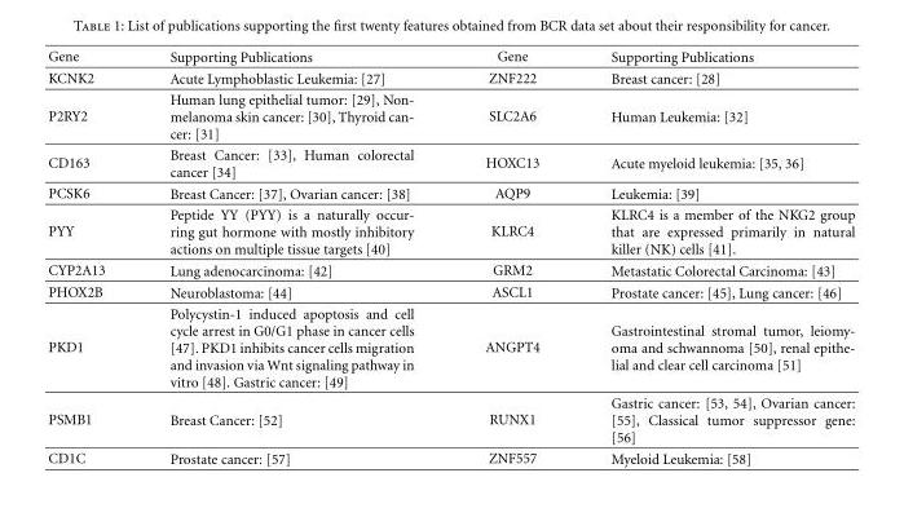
<table><thead><tr><td>Gene</td><td>Supporting Publications</td><td>Gene</td><td>Supporting Publications</td></tr></thead><tbody><tr><td>KCNK2</td><td>Acute Lymphoblastic Leukemia: [27]</td><td>ZNF222</td><td>Breast cancer: [28]</td></tr><tr><td>P2RY2</td><td>Human lung epithelial tumor: [29], Non- melanoma skin cancer: [30], Thyroid can- cer: [31]</td><td>SLC2A6</td><td>Human Leukemia: [32]</td></tr><tr><td>CD163</td><td>Breast Cancer: [33], Human colorectal cancer [34]</td><td>HOXC13</td><td>Acute myeloid leukemia: [35, 36]</td></tr><tr><td>PCSK6</td><td>Breast Cancer: [37], Ovarian cancer: [38]</td><td>AQP9</td><td>Leukemia: [39]</td></tr><tr><td>PYY</td><td>Peptide YY (PYY) is a naturally occur- ring gut hormone with mostly inhibitory actions on multiple tissue targets [40]</td><td>KLRC4</td><td>KLRC4 is a member of the NKG2 group that are expressed primarily in natural killer (NK) cells [41].</td></tr><tr><td>CYP2A13</td><td>Lung adenocarcinoma: [42]</td><td>GRM2</td><td>Metastatic Colorectal Carcinoma: [43]</td></tr><tr><td>PHOX2B</td><td>Neuroblastoma: [44]</td><td>ASCL1</td><td>Prostate cancer: [45], Lung cancer: [46]</td></tr><tr><td>PKD1</td><td>Polycystin-1 induced apoptosis and cell cycle arrest in G0/G1 phase in cancer cells [47]. PKD1 inhibits cancer cells migration and invasion via Wnt signaling pathway in vitro [48]. Gastric cancer: [49]</td><td>ANGPT4</td><td>Gastrointestinal stromal tumor, leiomy- oma and schwannoma [50], renal epithe- lial and clear cell carcinoma [51]</td></tr><tr><td>PSMB1</td><td>Breast Cancer: [52]</td><td>RUNX1</td><td>Gastric cancer: [53, 54], Ovarian cancer: [55], Classical tumor suppressor gene: [56]</td></tr><tr><td>CD1C</td><td>Prostate cancer: [57]</td><td>ZNF557</td><td>Myeloid Leukemia: [58]</td></tr></tbody></table>